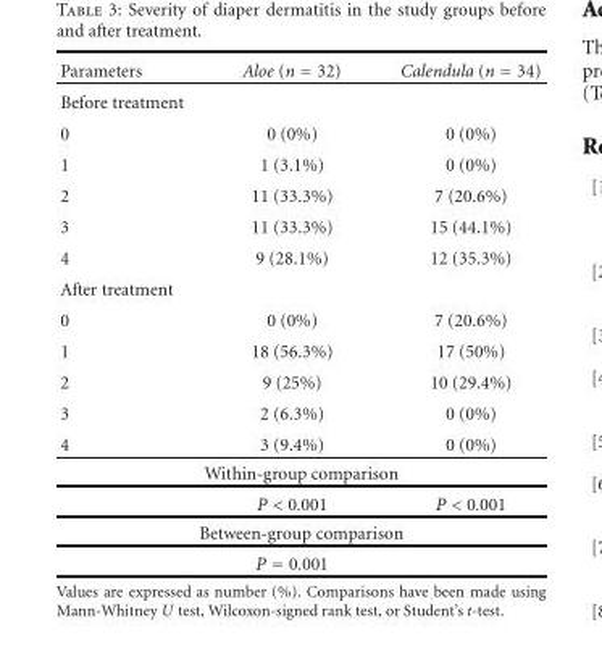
<table><thead><tr><td>Parameters</td><td>Aloe (n = 32)</td><td>Calendula (n = 34)</td></tr></thead><tbody><tr><td colspan="3">Before treatment</td></tr><tr><td>0</td><td>0 (0%)</td><td>0 (0%)</td></tr><tr><td>1</td><td>1 (3.1%)</td><td>0 (0%)</td></tr><tr><td>2</td><td>11 (33.3%)</td><td>7 (20.6%)</td></tr><tr><td>3</td><td>11 (33.3%)</td><td>15 (44.1%)</td></tr><tr><td>4</td><td>9 (28.1%)</td><td>12 (35.3%)</td></tr><tr><td colspan="3">After treatment</td></tr><tr><td>0</td><td>0 (0%)</td><td>7 (20.6%)</td></tr><tr><td>1</td><td>18 (56.3%)</td><td>17 (50%)</td></tr><tr><td>2</td><td>9 (25%)</td><td>10 (29.4%)</td></tr><tr><td>3</td><td>2 (6.3%)</td><td>0 (0%)</td></tr><tr><td>4</td><td>3 (9.4%)</td><td>0 (0%)</td></tr><tr><td colspan="3">Within-group comparison</td></tr><tr><td></td><td>P &lt; 0.001</td><td>P &lt; 0.001</td></tr><tr><td colspan="3">Between-group comparison</td></tr><tr><td></td><td>P = 0.001</td><td></td></tr></tbody></table>